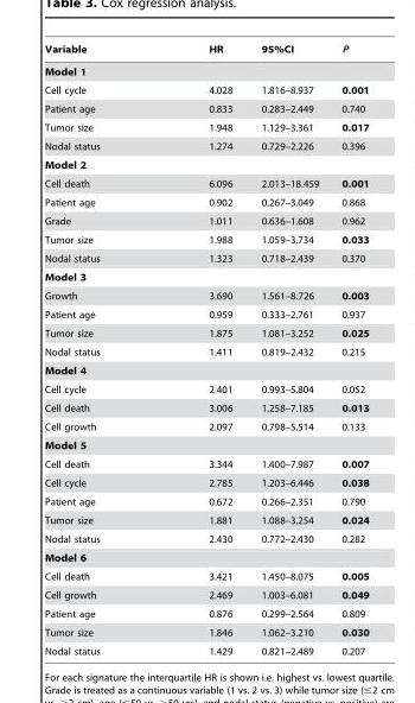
<table><thead><tr><td>Variable</td><td>HR</td><td>95%CI</td><td>P</td></tr></thead><tbody><tr><td colspan="4">Model 1</td></tr><tr><td>Cell cycle</td><td>4.028</td><td>1.816–8.937</td><td>0.001</td></tr><tr><td>Patient age</td><td>0.833</td><td>0.283–2.449</td><td>0.740</td></tr><tr><td>Tumor size</td><td>1.948</td><td>1.129–3.361</td><td>0.017</td></tr><tr><td>Nodal status</td><td>1.274</td><td>0.729–2.226</td><td>0.396</td></tr><tr><td colspan="4">Model 2</td></tr><tr><td>Cell death</td><td>6.096</td><td>2.013–18.459</td><td>0.001</td></tr><tr><td>Patient age</td><td>0.902</td><td>0.267–3.049</td><td>0.868</td></tr><tr><td>Grade</td><td>1.011</td><td>0.636–1.608</td><td>0.962</td></tr><tr><td>Tumor size</td><td>1.988</td><td>1.059–3.734</td><td>0.033</td></tr><tr><td>Nodal status</td><td>1.323</td><td>0.718–2.439</td><td>0.370</td></tr><tr><td colspan="4">Model 3</td></tr><tr><td>Growth</td><td>3.690</td><td>1.561–8.726</td><td>0.003</td></tr><tr><td>Patient age</td><td>0.959</td><td>0.333–2.761</td><td>0.937</td></tr><tr><td>Tumor size</td><td>1.875</td><td>1.081–3.252</td><td>0.025</td></tr><tr><td>Nodal status</td><td>1.411</td><td>0.819–2.432</td><td>0.215</td></tr><tr><td colspan="4">Model 4</td></tr><tr><td>Cell cycle</td><td>2.401</td><td>0.993–5.804</td><td>0.052</td></tr><tr><td>Cell death</td><td>3.006</td><td>1.258–7.185</td><td>0.013</td></tr><tr><td>Cell growth</td><td>2.097</td><td>0.798–5.514</td><td>0.133</td></tr><tr><td colspan="4">Model 5</td></tr><tr><td>Cell death</td><td>3.344</td><td>1.400–7.987</td><td>0.007</td></tr><tr><td>Cell cycle</td><td>2.785</td><td>1.203–6.446</td><td>0.038</td></tr><tr><td>Patient age</td><td>0.672</td><td>0.266–2.351</td><td>0.790</td></tr><tr><td>Tumor size</td><td>1.881</td><td>1.088–3.254</td><td>0.024</td></tr><tr><td>Nodal status</td><td>2.430</td><td>0.772–2.430</td><td>0.282</td></tr><tr><td colspan="4">Model 6</td></tr><tr><td>Cell death</td><td>3.421</td><td>1.450–8.075</td><td>0.005</td></tr><tr><td>Cell growth</td><td>2.469</td><td>1.003–6.081</td><td>0.049</td></tr><tr><td>Patient age</td><td>0.876</td><td>0.299–2.564</td><td>0.809</td></tr><tr><td>Tumor size</td><td>1.846</td><td>1.062–3.210</td><td>0.030</td></tr><tr><td>Nodal status</td><td>1.429</td><td>0.821–2.489</td><td>0.207</td></tr></tbody></table>